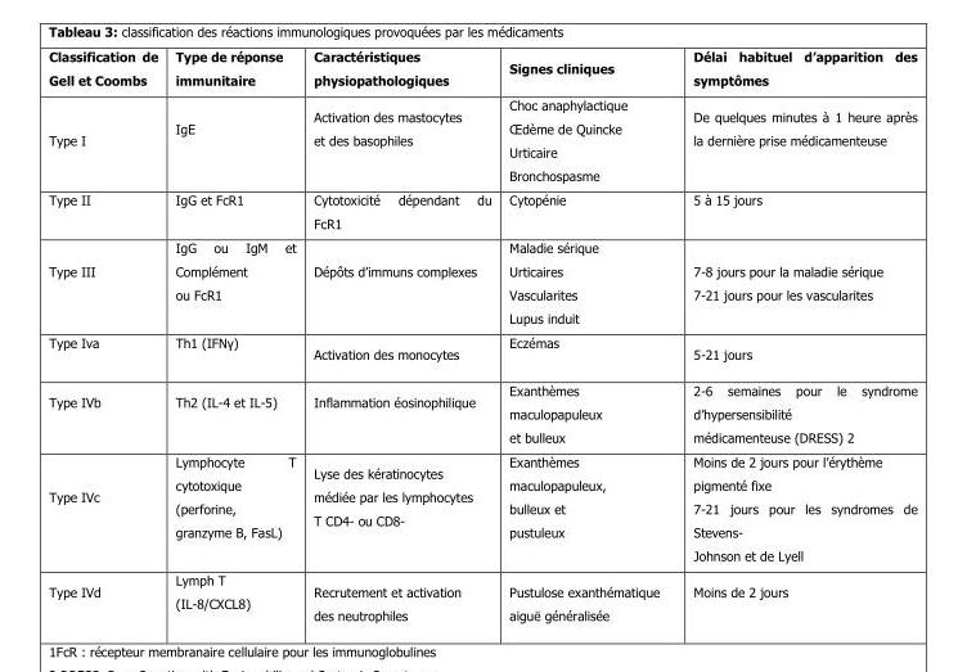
<table><thead><tr><td>Classification de Gell et Coombs</td><td>Type de réponse immunitaire</td><td>Caractéristiques physiopathologiques</td><td>Signes cliniques</td><td>Délai habituel d’apparition des symptômes</td></tr></thead><tbody><tr><td>Type I</td><td>IgE</td><td>Activation des mastocytes et des basophiles</td><td>Choc anaphylactique Œdème de Quincke Urticaire Bronchospasme</td><td>De quelques minutes à 1 heure après la dernière prise médicamenteuse</td></tr><tr><td>Type II</td><td>IgG et FcR1</td><td>Cytotoxicité dépendant du FcR1</td><td>Cytopénie</td><td>5 à 15 jours</td></tr><tr><td>Type III</td><td>IgG ou IgM et Complément ou FcR1</td><td>Dépôts d’immuns complexes</td><td>Maladie sérique Urticaires Vascularites Lupus induit</td><td>7-8 jours pour la maladie sérique 7-21 jours pour les vascularites</td></tr><tr><td>Type Iva</td><td>Th1 (IFNγ)</td><td>Activation des monocytes</td><td>Eczémas</td><td>5-21 jours</td></tr><tr><td>Type IVb</td><td>Th2 (IL-4 et IL-5)</td><td>Inflammation éosinophilique</td><td>Exanthèmes maculopapuleux et bulleux</td><td>2-6 semaines pour le syndrome d’hypersensibilité médicamenteuse (DRESS) 2</td></tr><tr><td>Type IVc</td><td>Lymphocyte T cytotoxique (perforine, granzyme B, FasL)</td><td>Lyse des kératinocytes médiée par les lymphocytes T CD4- ou CD8-</td><td>Exanthèmes maculopapuleux, bulleux et pustuleux</td><td>Moins de 2 jours pour l’érythème pigmenté fixe 7-21 jours pour les syndromes de Stevens- Johnson et de Lyell</td></tr><tr><td>Type IVd</td><td>Lymph T (IL-8/CXCL8)</td><td>Recrutement et activation des neutrophiles</td><td>Pustulose exanthématique aiguë généralisée</td><td>Moins de 2 jours</td></tr></tbody></table>